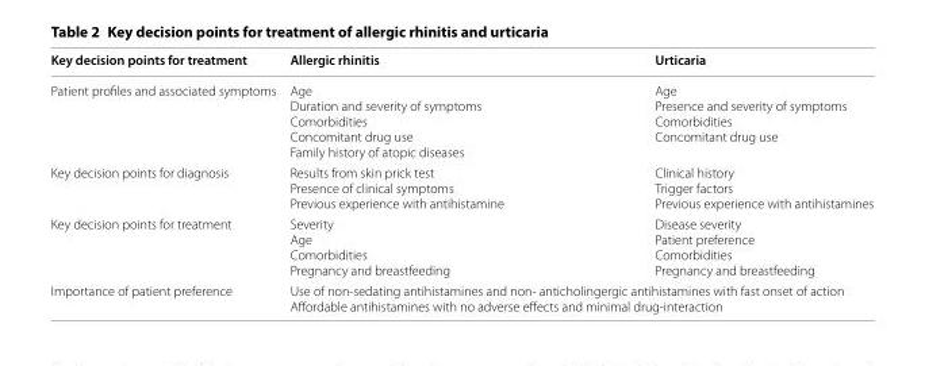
<table><thead><tr><td>Key decision points for treatment</td><td>Allergic rhinitis</td><td>Urticaria</td></tr></thead><tbody><tr><td>Patient profiles and associated symptoms</td><td>Age Duration and severity of symptoms Comorbidities Concomitant drug use Family history of atopic diseases</td><td>Age Presence and severity of symptoms Comorbidities Concomitant drug use</td></tr><tr><td>Key decision points for diagnosis</td><td>Results from skin prick test Presence of clinical symptoms Previous experience with antihistamine</td><td>Clinical history Trigger factors Previous experience with antihistamines</td></tr><tr><td>Key decision points for treatment</td><td>Severity Age Comorbidities Pregnancy and breastfeeding</td><td>Disease severity Patient preference Comorbidities Pregnancy and breastfeeding</td></tr><tr><td>Importance of patient preference</td><td colspan="2">Use of non‑sedating antihistamines and non‑ anticholingergic antihistamines with fast onset of action Affordable antihistamines with no adverse effects and minimal drug‑interaction</td></tr></tbody></table>